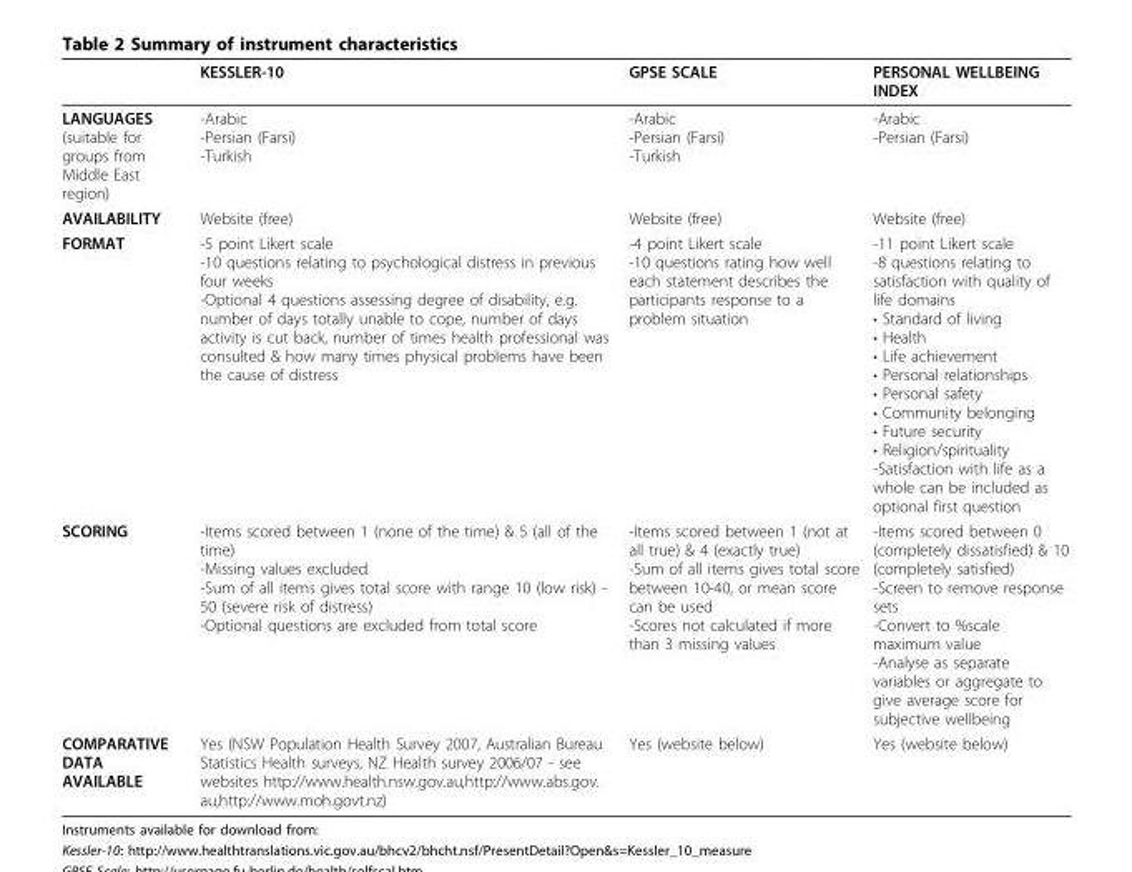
<table><thead><tr><td></td><td>KESSLER-10</td><td>GPSE SCALE</td><td>PERSONAL WELLBEING INDEX</td></tr></thead><tbody><tr><td>LANGUAGES (suitable for groups from Middle East region)</td><td>-Arabic -Persian (Farsi) -Turkish</td><td>-Arabic -Persian (Farsi) -Turkish</td><td>-Arabic -Persian (Farsi)</td></tr><tr><td>AVAILABILITY</td><td>Website (free)</td><td>Website (free)</td><td>Website (free)</td></tr><tr><td>FORMAT</td><td>-5 point Likert scale -10 questions relating to psychological distress in previous four weeks -Optional 4 questions assessing degree of disability, e.g. number of days totally unable to cope, number of days activity is cut back, number of times health professional was consulted &amp; how many times physical problems have been the cause of distress</td><td>-4 point Likert scale -10 questions rating how well each statement describes the participants response to a problem situation</td><td>-11 point Likert scale -8 questions relating to satisfaction with quality of life domains • Standard of living • Health • Life achievement • Personal relationships • Personal safety • Community belonging • Future security • Religion/spirituality -Satisfaction with life as a whole can be included as optional first question</td></tr><tr><td>SCORING</td><td>-Items scored between 1 (none of the time) &amp; 5 (all of the time) -Missing values excluded -Sum of all items gives total score with range 10 (low risk) - 50 (severe risk of distress) -Optional questions are excluded from total score</td><td>-Items scored between 1 (not at all true) &amp; 4 (exactly true) -Sum of all items gives total score between 10-40, or mean score can be used -Scores not calculated if more than 3 missing values</td><td>-Items scored between 0 (completely dissatisfied) &amp; 10 (completely satisfied) -Screen to remove response sets -Convert to %scale maximum value -Analyse as separate variables or aggregate to give average score for subjective wellbeing</td></tr><tr><td>COMPARATIVE DATA AVAILABLE</td><td>Yes (NSW Population Health Survey 2007, Australian Bureau Statistics Health surveys, NZ Health survey 2006/07 - see websites http://www.health.nsw.gov.au,http://www.abs.gov. au,http://www.moh.govt.nz)</td><td>Yes (website below)</td><td>Yes (website below)</td></tr></tbody></table>